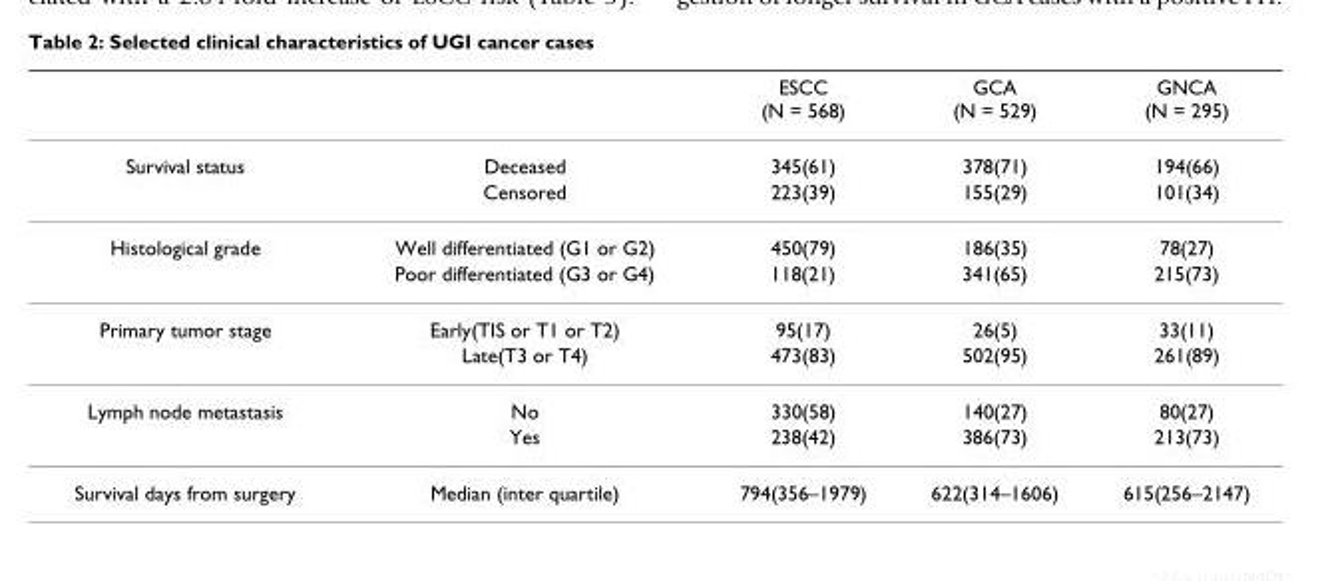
<table><thead><tr><td></td><td></td><td>ESCC (N = 568)</td><td>GCA (N = 529)</td><td>GNCA (N = 295)</td></tr></thead><tbody><tr><td rowspan="2">Survival status</td><td>Deceased</td><td>345(61)</td><td>378(71)</td><td>194(66)</td></tr><tr><td>Censored</td><td>223(39)</td><td>155(29)</td><td>101(34)</td></tr><tr><td rowspan="2">Histological grade</td><td>Well differentiated (G1 or G2)</td><td>450(79)</td><td>186(35)</td><td>78(27)</td></tr><tr><td>Poor differentiated (G3 or G4)</td><td>118(21)</td><td>341(65)</td><td>215(73)</td></tr><tr><td rowspan="2">Primary tumor stage</td><td>Early(TIS or T1 or T2)</td><td>95(17)</td><td>26(5)</td><td>33(11)</td></tr><tr><td>Late(T3 or T4)</td><td>473(83)</td><td>502(95)</td><td>261(89)</td></tr><tr><td rowspan="2">Lymph node metastasis</td><td>No</td><td>330(58)</td><td>140(27)</td><td>80(27)</td></tr><tr><td>Yes</td><td>238(42)</td><td>386(73)</td><td>213(73)</td></tr><tr><td>Survival days from surgery</td><td>Median (inter quartile)</td><td>794(356–1979)</td><td>622(314–1606)</td><td>615(256–2147)</td></tr></tbody></table>